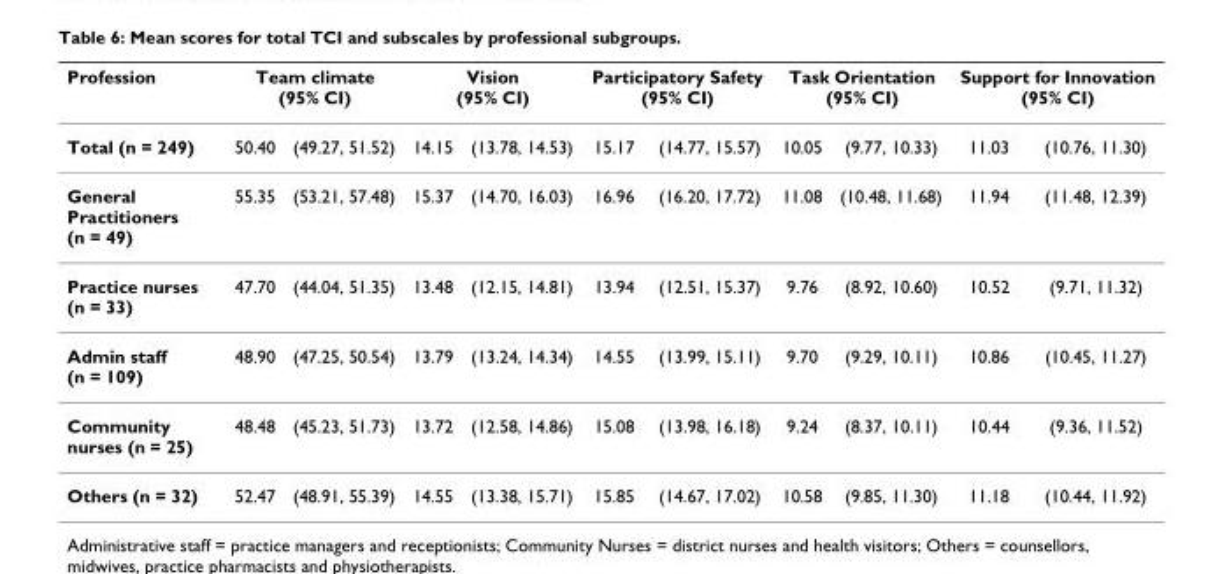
<table><thead><tr><td rowspan="2">Profession Total (n = 249)</td><td colspan="2">Team climate (95% CI)</td><td colspan="2">Vision (95% CI)</td><td colspan="2">Participatory Safety (95% CI)</td><td colspan="2">Task Orientation (95% CI)</td><td colspan="2">Support for Innovation (95% CI)</td></tr><tr><td>50.40</td><td>(49.27, 51.52)</td><td>14.15</td><td>(13.78, 14.53)</td><td>15.17</td><td>(14.77, 15.57)</td><td>10.05</td><td>(9.77, 10.33)</td><td>11.03</td><td>(10.76, 11.30)</td></tr></thead><tbody><tr><td>General Practitioners (n = 49)</td><td>55.35</td><td>(53.21, 57.48)</td><td>15.37</td><td>(14.70, 16.03)</td><td>16.96</td><td>(16.20, 17.72)</td><td>11.08</td><td>(10.48, 11.68)</td><td>11.94</td><td>(11.48, 12.39)</td></tr><tr><td>Practice nurses (n = 33)</td><td>47.70</td><td>(44.04, 51.35)</td><td>13.48</td><td>(12.15, 14.81)</td><td>13.94</td><td>(12.51, 15.37)</td><td>9.76</td><td>(8.92, 10.60)</td><td>10.52</td><td>(9.71, 11.32)</td></tr><tr><td>Admin staff (n = 109)</td><td>48.90</td><td>(47.25, 50.54)</td><td>13.79</td><td>(13.24, 14.34)</td><td>14.55</td><td>(13.99, 15.11)</td><td>9.70</td><td>(9.29, 10.11)</td><td>10.86</td><td>(10.45, 11.27)</td></tr><tr><td>Community nurses (n = 25)</td><td>48.48</td><td>(45.23, 51.73)</td><td>13.72</td><td>(12.58, 14.86)</td><td>15.08</td><td>(13.98, 16.18)</td><td>9.24</td><td>(8.37, 10.11)</td><td>10.44</td><td>(9.36, 11.52)</td></tr><tr><td>Others (n = 32)</td><td>52.47</td><td>(48.91, 55.39)</td><td>14.55</td><td>(13.38, 15.71)</td><td>15.85</td><td>(14.67, 17.02)</td><td>10.58</td><td>(9.85, 11.30)</td><td>11.18</td><td>(10.44, 11.92)</td></tr></tbody></table>